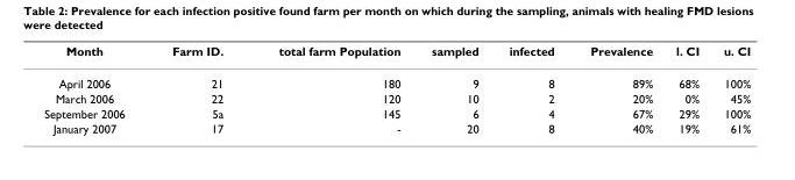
<table><thead><tr><td>Month</td><td>Farm ID.</td><td>total farm Population</td><td>sampled</td><td>infected</td><td>Prevalence</td><td>l. CI</td><td>u. CI</td></tr></thead><tbody><tr><td>April 2006</td><td>21</td><td>180</td><td>9</td><td>8</td><td>89%</td><td>68%</td><td>100%</td></tr><tr><td>March 2006</td><td>22</td><td>120</td><td>10</td><td>2</td><td>20%</td><td>0%</td><td>45%</td></tr><tr><td>September 2006</td><td>5a</td><td>145</td><td>6</td><td>4</td><td>67%</td><td>29%</td><td>100%</td></tr><tr><td>January 2007</td><td>17</td><td>-</td><td>20</td><td>8</td><td>40%</td><td>19%</td><td>61%</td></tr></tbody></table>